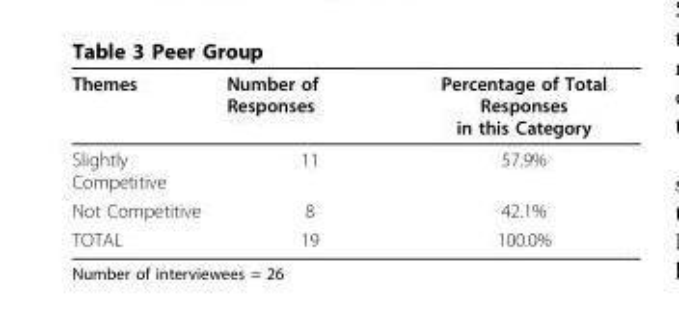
<table><thead><tr><td>Themes</td><td>Number of Responses</td><td>Percentage of Total Responses in this Category</td></tr></thead><tbody><tr><td>Slightly Competitive</td><td>11</td><td>57.9%</td></tr><tr><td>Not Competitive</td><td>8</td><td>42.1%</td></tr><tr><td>TOTAL</td><td>19</td><td>100.0%</td></tr></tbody></table>